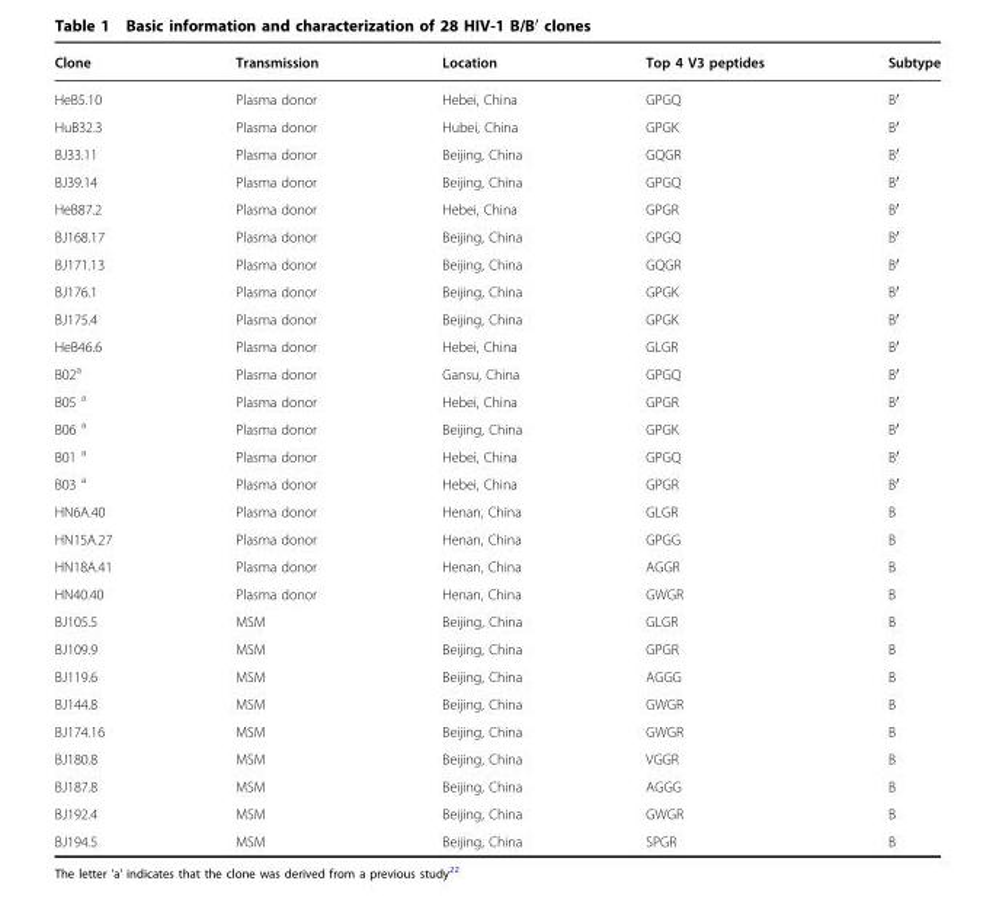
<table><thead><tr><td>Clone</td><td>Transmission</td><td>Location</td><td>Top 4 V3 peptides</td><td>Subtype</td></tr></thead><tbody><tr><td>HeB5.10</td><td>Plasma donor</td><td>Hebei, China</td><td>GPGQ</td><td>B′</td></tr><tr><td>HuB32.3</td><td>Plasma donor</td><td>Hubei, China</td><td>GPGK</td><td>B′</td></tr><tr><td>BJ33.11</td><td>Plasma donor</td><td>Beijing, China</td><td>GQGR</td><td>B′</td></tr><tr><td>BJ39.14</td><td>Plasma donor</td><td>Beijing, China</td><td>GPGQ</td><td>B′</td></tr><tr><td>HeB87.2</td><td>Plasma donor</td><td>Hebei, China</td><td>GPGR</td><td>B′</td></tr><tr><td>BJ168.17</td><td>Plasma donor</td><td>Beijing, China</td><td>GPGQ</td><td>B′</td></tr><tr><td>BJ171.13</td><td>Plasma donor</td><td>Beijing, China</td><td>GQGR</td><td>B′</td></tr><tr><td>BJ176.1</td><td>Plasma donor</td><td>Beijing, China</td><td>GPGK</td><td>B′</td></tr><tr><td>BJ175.4</td><td>Plasma donor</td><td>Beijing, China</td><td>GPGK</td><td>B′</td></tr><tr><td>HeB46.6</td><td>Plasma donor</td><td>Hebei, China</td><td>GLGR</td><td>B′</td></tr><tr><td>B02<sup>a</sup></td><td>Plasma donor</td><td>Gansu, China</td><td>GPGQ</td><td>B′</td></tr><tr><td>B05 <sup>a</sup></td><td>Plasma donor</td><td>Hebei, China</td><td>GPGR</td><td>B′</td></tr><tr><td>B06 <sup>a</sup></td><td>Plasma donor</td><td>Beijing, China</td><td>GPGK</td><td>B′</td></tr><tr><td>B01 <sup>a</sup></td><td>Plasma donor</td><td>Hebei, China</td><td>GPGQ</td><td>B′</td></tr><tr><td>B03 <sup>a</sup></td><td>Plasma donor</td><td>Hebei, China</td><td>GPGR</td><td>B′</td></tr><tr><td>HN6A.40</td><td>Plasma donor</td><td>Henan, China</td><td>GLGR</td><td>B</td></tr><tr><td>HN15A.27</td><td>Plasma donor</td><td>Henan, China</td><td>GPGG</td><td>B</td></tr><tr><td>HN18A.41</td><td>Plasma donor</td><td>Henan, China</td><td>AGGR</td><td>B</td></tr><tr><td>HN40.40</td><td>Plasma donor</td><td>Henan, China</td><td>GWGR</td><td>B</td></tr><tr><td>BJ105.5</td><td>MSM</td><td>Beijing, China</td><td>GLGR</td><td>B</td></tr><tr><td>BJ109.9</td><td>MSM</td><td>Beijing, China</td><td>GPGR</td><td>B</td></tr><tr><td>BJ119.6</td><td>MSM</td><td>Beijing, China</td><td>AGGG</td><td>B</td></tr><tr><td>BJ144.8</td><td>MSM</td><td>Beijing, China</td><td>GWGR</td><td>B</td></tr><tr><td>BJ174.16</td><td>MSM</td><td>Beijing, China</td><td>GWGR</td><td>B</td></tr><tr><td>BJ180.8</td><td>MSM</td><td>Beijing, China</td><td>VGGR</td><td>B</td></tr><tr><td>BJ187.8</td><td>MSM</td><td>Beijing, China</td><td>AGGG</td><td>B</td></tr><tr><td>BJ192.4</td><td>MSM</td><td>Beijing, China</td><td>GWGR</td><td>B</td></tr><tr><td>BJ194.5</td><td>MSM</td><td>Beijing, China</td><td>SPGR</td><td>B</td></tr></tbody></table>